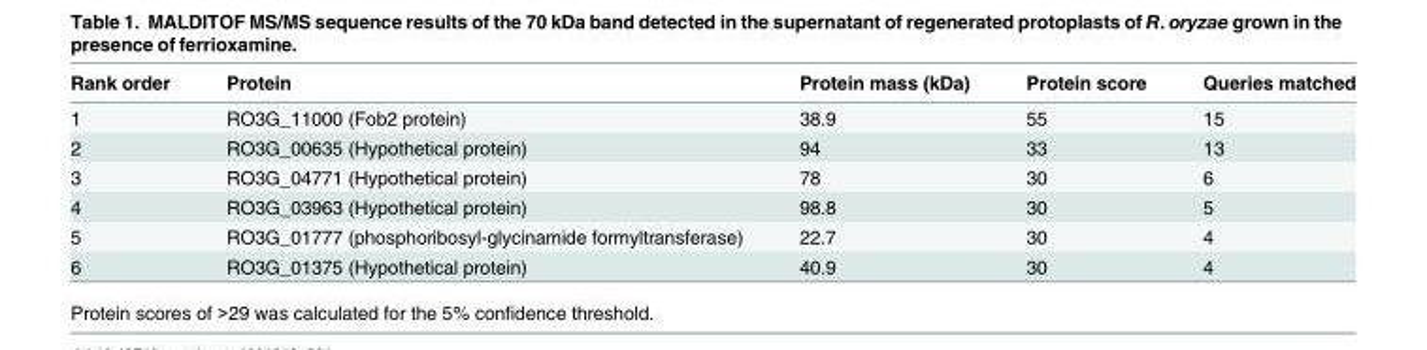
<table><thead><tr><td>Rank order</td><td>Protein</td><td>Protein mass (kDa)</td><td>Protein score</td><td>Queries matched</td></tr></thead><tbody><tr><td>1</td><td>RO3G_11000 (Fob2 protein)</td><td>38.9</td><td>55</td><td>15</td></tr><tr><td>2</td><td>RO3G_00635 (Hypothetical protein)</td><td>94</td><td>33</td><td>13</td></tr><tr><td>3</td><td>RO3G_04771 (Hypothetical protein)</td><td>78</td><td>30</td><td>6</td></tr><tr><td>4</td><td>RO3G_03963 (Hypothetical protein)</td><td>98.8</td><td>30</td><td>5</td></tr><tr><td>5</td><td>RO3G_01777 (phosphoribosyl-glycinamide formyltransferase)</td><td>22.7</td><td>30</td><td>4</td></tr><tr><td>6</td><td>RO3G_01375 (Hypothetical protein)</td><td>40.9</td><td>30</td><td>4</td></tr></tbody></table>